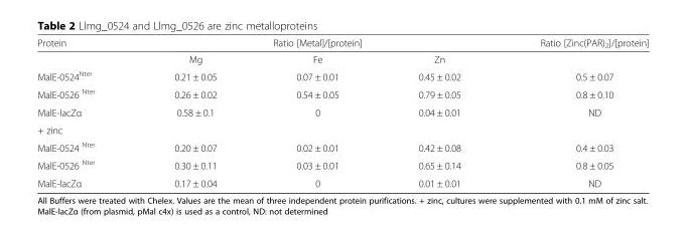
<table><thead><tr><td rowspan="2">Protein</td><td colspan="3">Ratio [Metal]/[protein]</td><td rowspan="2">Ratio [Zinc(PAR)<sub>2</sub>]/[protein]</td></tr><tr><td>Mg</td><td>Fe</td><td>Zn</td></tr></thead><tbody><tr><td>MalE-0524<sup>Nter</sup></td><td>0.21 ± 0.05</td><td>0.07 ± 0.01</td><td>0.45 ± 0.02</td><td>0.5 ± 0.07</td></tr><tr><td>MalE-0526 <sup>Nter</sup></td><td>0.26 ± 0.02</td><td>0.54 ± 0.05</td><td>0.79 ± 0.05</td><td>0.8 ± 0.10</td></tr><tr><td>MalE-lacZα</td><td>0.58 ± 0.1</td><td>0</td><td>0.04 ± 0.01</td><td>ND</td></tr><tr><td colspan="5">+ zinc</td></tr><tr><td>MalE-0524 <sup>Nter</sup></td><td>0.20 ± 0.07</td><td>0.02 ± 0.01</td><td>0.42 ± 0.08</td><td>0.4 ± 0.03</td></tr><tr><td>MalE-0526 <sup>Nter</sup></td><td>0.30 ± 0.11</td><td>0.03 ± 0.01</td><td>0.65 ± 0.14</td><td>0.8 ± 0.05</td></tr><tr><td>MalE-lacZα</td><td>0.17 ± 0.04</td><td>0</td><td>0.01 ± 0.01</td><td>ND</td></tr></tbody></table>